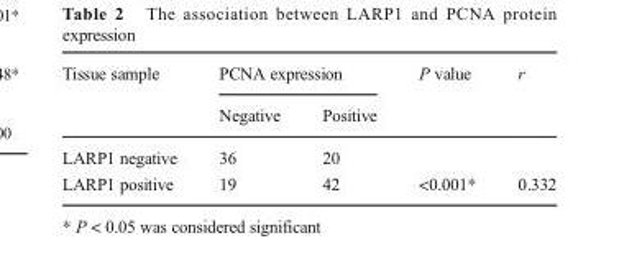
<table><thead><tr><td rowspan="2">Tissue sample</td><td colspan="2">PCNA expression</td><td rowspan="2">P value</td><td rowspan="2">r</td></tr><tr><td>Negative</td><td>Positive</td></tr></thead><tbody><tr><td>LARP1 negative</td><td>36</td><td>20</td><td></td><td></td></tr><tr><td>LARP1 positive</td><td>19</td><td>42</td><td>&lt;0.001*</td><td>0.332</td></tr></tbody></table>